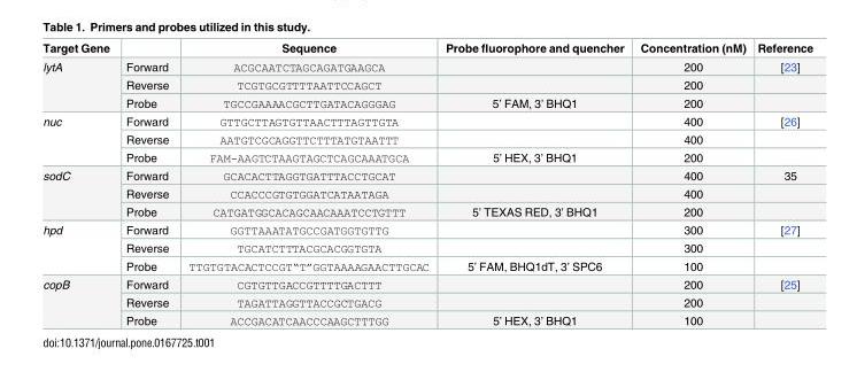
<table><thead><tr><td>Target Gene</td><td></td><td>Sequence</td><td>Probe fluorophore and quencher</td><td>Concentration (nM)</td><td>Reference</td></tr></thead><tbody><tr><td rowspan="3">lytA</td><td>Forward</td><td>ACGCAATCTAGCAGATGAAGCA</td><td></td><td>200</td><td>[23]</td></tr><tr><td>Reverse</td><td>TCGTGCGTTTTAATTCCAGCT</td><td></td><td>200</td><td></td></tr><tr><td>Probe</td><td>TGCCGAAAACGCTTGATACAGGGAG</td><td>5’ FAM, 3’ BHQ1</td><td>200</td><td></td></tr><tr><td rowspan="3">nuc</td><td>Forward</td><td>GTTGCTTAGTGTTAACTTTAGTTGTA</td><td></td><td>400</td><td>[26]</td></tr><tr><td>Reverse</td><td>AATGTCGCAGGTTCTTTATGTAATTT</td><td></td><td>400</td><td></td></tr><tr><td>Probe</td><td>FAM-AAGTCTAAGTAGCTCAGCAAATGCA</td><td>5’ HEX, 3’ BHQ1</td><td>200</td><td></td></tr><tr><td rowspan="3">sodC</td><td>Forward</td><td>GCACACTTAGGTGATTTACCTGCAT</td><td></td><td>400</td><td>35</td></tr><tr><td>Reverse</td><td>CCACCCGTGTGGATCATAATAGA</td><td></td><td>400</td><td></td></tr><tr><td>Probe</td><td>CATGATGGCACAGCAACAAATCCTGTTT</td><td>5’ TEXAS RED, 3’ BHQ1</td><td>200</td><td></td></tr><tr><td rowspan="3">hpd</td><td>Forward</td><td>GGTTAAATATGCCGATGGTGTTG</td><td></td><td>300</td><td>[27]</td></tr><tr><td>Reverse</td><td>TGCATCTTTACGCACGGTGTA</td><td></td><td>300</td><td></td></tr><tr><td>Probe</td><td>TTGTGTACACTCCGT“T”GGTAAAAGAACTTGCAC</td><td>5’ FAM, BHQ1dT, 3’ SPC6</td><td>100</td><td></td></tr><tr><td rowspan="3">copB</td><td>Forward</td><td>CGTGTTGACCGTTTTGACTTT</td><td></td><td>200</td><td>[25]</td></tr><tr><td>Reverse</td><td>TAGATTAGGTTACCGCTGACG</td><td></td><td>200</td><td></td></tr><tr><td>Probe</td><td>ACCGACATCAACCCAAGCTTTGG</td><td>5’ HEX, 3’ BHQ1</td><td>100</td><td></td></tr></tbody></table>